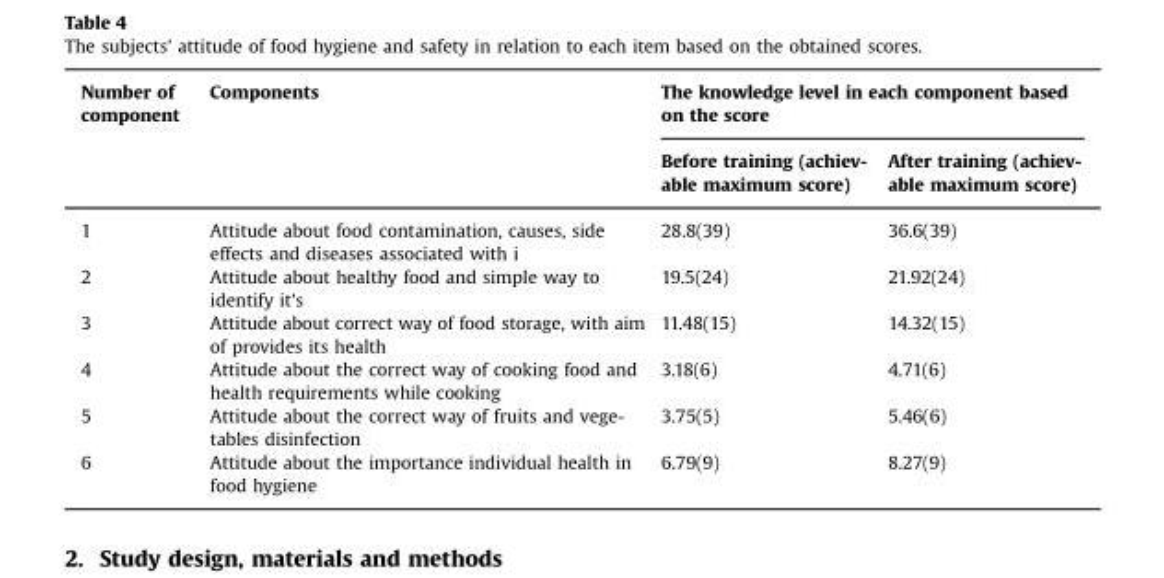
<table><thead><tr><td rowspan="2">Number of component</td><td rowspan="2">Components</td><td colspan="2">The knowledge level in each component based on the score</td></tr><tr><td>Before training (achiev- able maximum score)</td><td>After training (achiev- able maximum score)</td></tr></thead><tbody><tr><td>1</td><td>Attitude about food contamination, causes, side effects and diseases associated with i</td><td>28.8(39)</td><td>36.6(39)</td></tr><tr><td>2</td><td>Attitude about healthy food and simple way to identify it’s</td><td>19.5(24)</td><td>21.92(24)</td></tr><tr><td>3</td><td>Attitude about correct way of food storage, with aim of provides its health</td><td>11.48(15)</td><td>14.32(15)</td></tr><tr><td>4</td><td>Attitude about the correct way of cooking food and health requirements while cooking</td><td>3.18(6)</td><td>4.71(6)</td></tr><tr><td>5</td><td>Attitude about the correct way of fruits and vege- tables disinfection</td><td>3.75(5)</td><td>5.46(6)</td></tr><tr><td>6</td><td>Attitude about the importance individual health in food hygiene</td><td>6.79(9)</td><td>8.27(9)</td></tr></tbody></table>